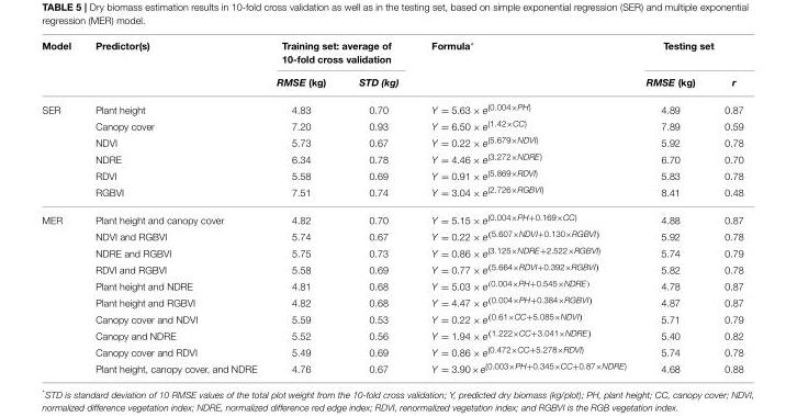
<table><thead><tr><td rowspan="2">Model</td><td rowspan="2">Predictor(s)</td><td colspan="2">Training set: average of 10-fold cross validation</td><td rowspan="2">Formula*</td><td colspan="2">Testing set</td></tr><tr><td>RMSE (kg)</td><td>STD (kg)</td><td>RMSE (kg)</td><td>r</td></tr></thead><tbody><tr><td rowspan="6">SER</td><td>Plant height</td><td>4.83</td><td>0.70</td><td>Y = 5.63 × e<sup>(0.004×PH)</sup></td><td>4.89</td><td>0.87</td></tr><tr><td>Canopy cover</td><td>7.20</td><td>0.93</td><td>Y = 6.50 × e<sup>(1.42×CC)</sup></td><td>7.89</td><td>0.59</td></tr><tr><td>NDVI</td><td>5.73</td><td>0.67</td><td>Y = 0.22 × e<sup>(5.679×NDVI)</sup></td><td>5.92</td><td>0.78</td></tr><tr><td>NDRE</td><td>6.34</td><td>0.78</td><td>Y = 4.46 × e<sup>(3.272×NDRE)</sup></td><td>6.70</td><td>0.70</td></tr><tr><td>RDVI</td><td>5.58</td><td>0.69</td><td>Y = 0.91 × e<sup>(5.869×RDVI)</sup></td><td>5.83</td><td>0.78</td></tr><tr><td>RGBVI</td><td>7.51</td><td>0.74</td><td>Y = 3.04 × e<sup>(2.726×RGBVI)</sup></td><td>8.41</td><td>0.48</td></tr><tr><td rowspan="10">MER</td><td>Plant height and canopy cover</td><td>4.82</td><td>0.70</td><td>Y = 5.15 × e<sup>(0.004×PH+0.169×CC)</sup></td><td>4.88</td><td>0.87</td></tr><tr><td>NDVI and RGBVI</td><td>5.74</td><td>0.67</td><td>Y = 0.22 × e<sup>(5.607×NDVI+0.130×RGBVI)</sup></td><td>5.92</td><td>0.78</td></tr><tr><td>NDRE and RGBVI</td><td>5.75</td><td>0.73</td><td>Y = 0.86 × e<sup>(3.125×NDRE+2.522×RGBVI)</sup></td><td>5.74</td><td>0.79</td></tr><tr><td>RDVI and RGBVI</td><td>5.58</td><td>0.69</td><td>Y = 0.77 × e<sup>(5.664×RDVI+0.392×RGBVI)</sup></td><td>5.82</td><td>0.78</td></tr><tr><td>Plant height and NDRE</td><td>4.81</td><td>0.68</td><td>Y = 5.03 × e<sup>(0.004×PH+0.545×NDRE)</sup></td><td>4.78</td><td>0.87</td></tr><tr><td>Plant height and RGBVI</td><td>4.82</td><td>0.68</td><td>Y = 4.47 × e<sup>(0.004×PH+0.384×RGBVI)</sup></td><td>4.87</td><td>0.87</td></tr><tr><td>Canopy cover and NDVI</td><td>5.59</td><td>0.53</td><td>Y = 0.22 × e<sup>(0.61×CC+5.085×NDVI)</sup></td><td>5.71</td><td>0.79</td></tr><tr><td>Canopy and NDRE</td><td>5.52</td><td>0.56</td><td>Y = 1.94 × e<sup>(1.222×CC+3.041×NDRE)</sup></td><td>5.40</td><td>0.82</td></tr><tr><td>Canopy cover and RDVI</td><td>5.49</td><td>0.69</td><td>Y = 0.86 × e<sup>(0.472×CC+5.278×RDVI)</sup></td><td>5.74</td><td>0.78</td></tr><tr><td>Plant height, canopy cover, and NDRE</td><td>4.76</td><td>0.67</td><td>Y = 3.90×e<sup>(0.003×PH+0.345×CC+0.87×NDRE)</sup></td><td>4.68</td><td>0.88</td></tr></tbody></table>